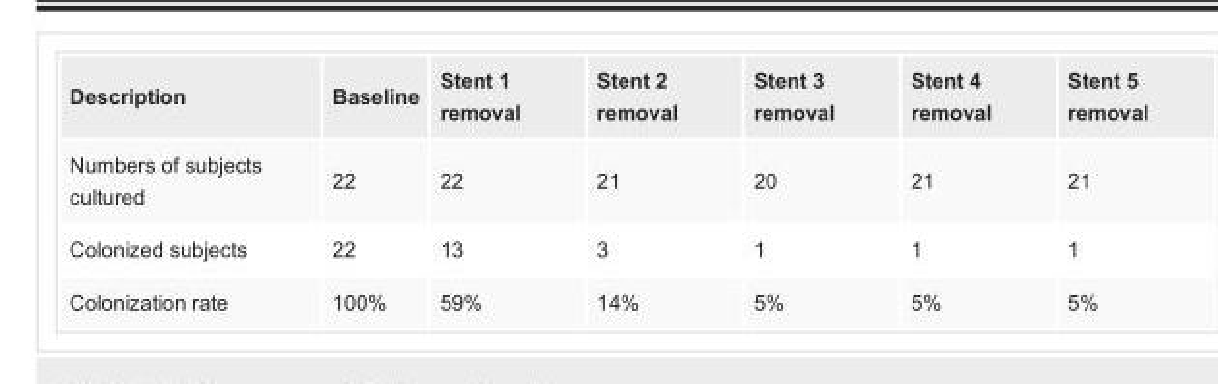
<table><tbody><tr><td>Description</td><td>Baseline</td><td>Stent 1 removal</td><td>Stent 2 removal</td><td>Stent 3 removal</td><td>Stent 4 removal</td><td>Stent 5 removal</td></tr><tr><td>Numbers of subjects cultured</td><td>22</td><td>22</td><td>21</td><td>20</td><td>21</td><td>21</td></tr><tr><td>Colonized subjects</td><td>22</td><td>13</td><td>3</td><td>1</td><td>1</td><td>1</td></tr><tr><td>Colonization rate</td><td>100%</td><td>59%</td><td>14%</td><td>5%</td><td>5%</td><td>5%</td></tr></tbody></table>